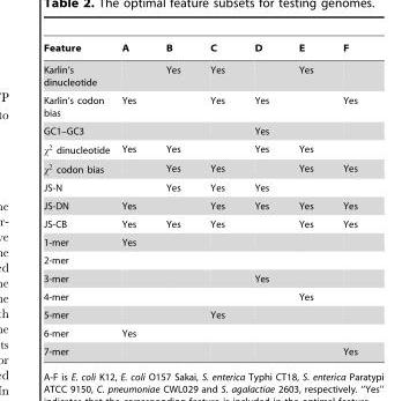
<table><thead><tr><td>Feature</td><td>A</td><td>B</td><td>C</td><td>D</td><td>E</td><td>F</td></tr></thead><tbody><tr><td>Karlin’s dinucleotide</td><td></td><td>Yes</td><td>Yes</td><td></td><td>Yes</td><td></td></tr><tr><td>Karlin’s codon bias</td><td>Yes</td><td></td><td>Yes</td><td>Yes</td><td></td><td>Yes</td></tr><tr><td>GC1–GC3</td><td></td><td></td><td></td><td>Yes</td><td></td><td></td></tr><tr><td>x2 dinucleotide</td><td>Yes</td><td>Yes</td><td></td><td>Yes</td><td>Yes</td><td></td></tr><tr><td>x2 codon bias</td><td></td><td>Yes</td><td>Yes</td><td></td><td>Yes</td><td>Yes</td></tr><tr><td>JS-N</td><td></td><td>Yes</td><td>Yes</td><td>Yes</td><td></td><td></td></tr><tr><td>JS-DN</td><td>Yes</td><td></td><td>Yes</td><td>Yes</td><td>Yes</td><td>Yes</td></tr><tr><td>JS-CB</td><td>Yes</td><td>Yes</td><td>Yes</td><td></td><td>Yes</td><td>Yes</td></tr><tr><td>1-mer</td><td>Yes</td><td></td><td></td><td></td><td></td><td></td></tr><tr><td colspan="7">2-mer</td></tr><tr><td>3-mer</td><td></td><td></td><td></td><td>Yes</td><td></td><td></td></tr><tr><td>4-mer</td><td></td><td></td><td></td><td></td><td>Yes</td><td></td></tr><tr><td>5-mer</td><td></td><td></td><td>Yes</td><td></td><td></td><td></td></tr><tr><td>6-mer</td><td>Yes</td><td></td><td></td><td></td><td></td><td></td></tr><tr><td>7-mer</td><td></td><td></td><td></td><td></td><td></td><td>Yes</td></tr></tbody></table>